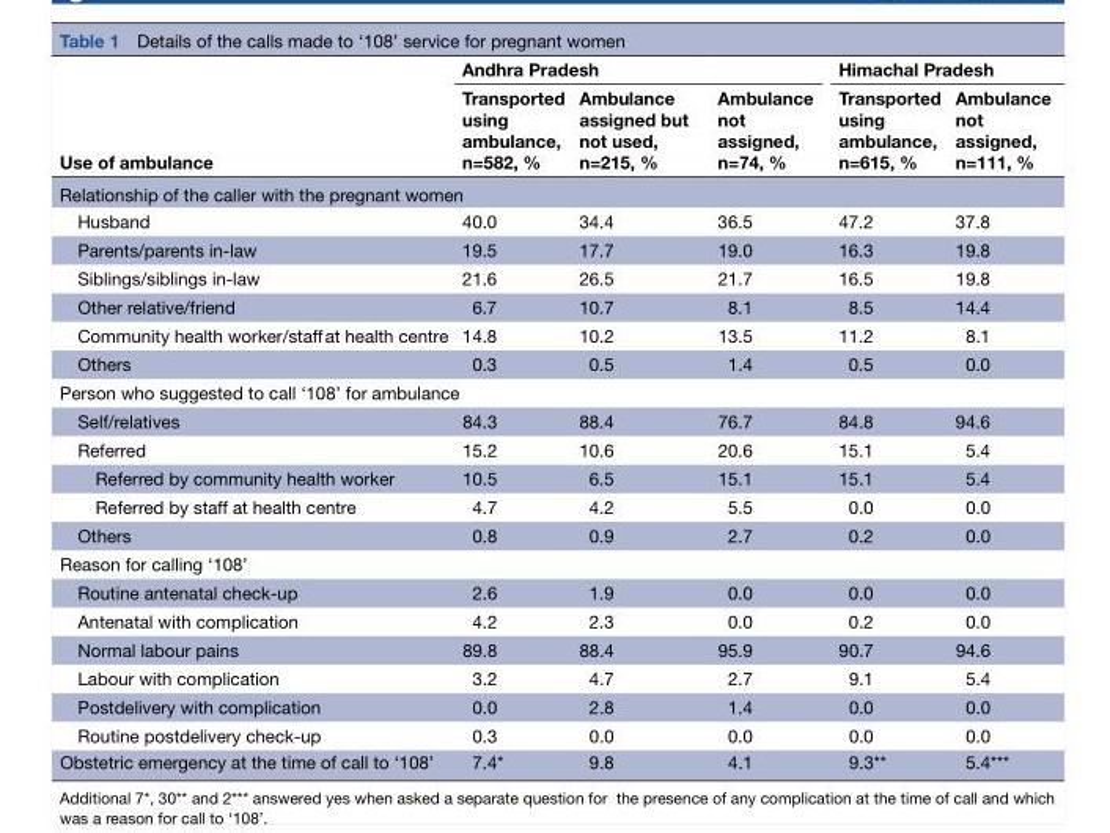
<table><thead><tr><td rowspan="2">Use of ambulance</td><td colspan="3">Andhra Pradesh</td><td colspan="2">Himachal Pradesh</td></tr><tr><td>Transported using ambulance, n=582, %</td><td>Ambulance assigned but not used, n=215, %</td><td>Ambulance not assigned, n=74, %</td><td>Transported using ambulance, n=615, %</td><td>Ambulance not assigned, n=111, %</td></tr></thead><tbody><tr><td colspan="6">Relationship of the caller with the pregnant women</td></tr><tr><td>Husband</td><td>40.0</td><td>34.4</td><td>36.5</td><td>47.2</td><td>37.8</td></tr><tr><td>Parents/parents in-law</td><td>19.5</td><td>17.7</td><td>19.0</td><td>16.3</td><td>19.8</td></tr><tr><td>Siblings/siblings in-law</td><td>21.6</td><td>26.5</td><td>21.7</td><td>16.5</td><td>19.8</td></tr><tr><td>Other relative/friend</td><td>6.7</td><td>10.7</td><td>8.1</td><td>8.5</td><td>14.4</td></tr><tr><td>Community health worker/staff at health centre</td><td>14.8</td><td>10.2</td><td>13.5</td><td>11.2</td><td>8.1</td></tr><tr><td>Others</td><td>0.3</td><td>0.5</td><td>1.4</td><td>0.5</td><td>0.0</td></tr><tr><td colspan="6">Person who suggested to call ‘108’ for ambulance</td></tr><tr><td>Self/relatives</td><td>84.3</td><td>88.4</td><td>76.7</td><td>84.8</td><td>94.6</td></tr><tr><td>Referred</td><td>15.2</td><td>10.6</td><td>20.6</td><td>15.1</td><td>5.4</td></tr><tr><td>Referred by community health worker</td><td>10.5</td><td>6.5</td><td>15.1</td><td>15.1</td><td>5.4</td></tr><tr><td>Referred by staff at health centre</td><td>4.7</td><td>4.2</td><td>5.5</td><td>0.0</td><td>0.0</td></tr><tr><td>Others</td><td>0.8</td><td>0.9</td><td>2.7</td><td>0.2</td><td>0.0</td></tr><tr><td colspan="6">Reason for calling ‘108’</td></tr><tr><td>Routine antenatal check-up</td><td>2.6</td><td>1.9</td><td>0.0</td><td>0.0</td><td>0.0</td></tr><tr><td>Antenatal with complication</td><td>4.2</td><td>2.3</td><td>0.0</td><td>0.2</td><td>0.0</td></tr><tr><td>Normal labour pains</td><td>89.8</td><td>88.4</td><td>95.9</td><td>90.7</td><td>94.6</td></tr><tr><td>Labour with complication</td><td>3.2</td><td>4.7</td><td>2.7</td><td>9.1</td><td>5.4</td></tr><tr><td>Postdelivery with complication</td><td>0.0</td><td>2.8</td><td>1.4</td><td>0.0</td><td>0.0</td></tr><tr><td>Routine postdelivery check-up</td><td>0.3</td><td>0.0</td><td>0.0</td><td>0.0</td><td>0.0</td></tr><tr><td>Obstetric emergency at the time of call to ‘108’</td><td>7.4*</td><td>9.8</td><td>4.1</td><td>9.3**</td><td>5.4***</td></tr></tbody></table>